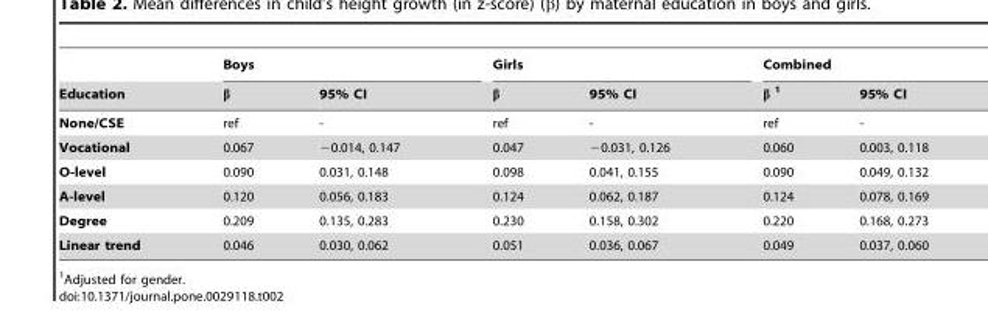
<table><thead><tr><td rowspan="2">Education</td><td colspan="2">Boys</td><td colspan="2">Girls</td><td colspan="2">Combined</td></tr><tr><td>β</td><td>95% CI</td><td>β</td><td>95% CI</td><td>β 1</td><td>95% CI</td></tr></thead><tbody><tr><td>None/CSE</td><td>ref</td><td>-</td><td>ref</td><td>-</td><td>ref</td><td>-</td></tr><tr><td>Vocational</td><td>0.067</td><td>−0.014, 0.147</td><td>0.047</td><td>−0.031, 0.126</td><td>0.060</td><td>0.003, 0.118</td></tr><tr><td>O-level</td><td>0.090</td><td>0.031, 0.148</td><td>0.098</td><td>0.041, 0.155</td><td>0.090</td><td>0.049, 0.132</td></tr><tr><td>A-level</td><td>0.120</td><td>0.056, 0.183</td><td>0.124</td><td>0.062, 0.187</td><td>0.124</td><td>0.078, 0.169</td></tr><tr><td>Degree</td><td>0.209</td><td>0.135, 0.283</td><td>0.230</td><td>0.158, 0.302</td><td>0.220</td><td>0.168, 0.273</td></tr><tr><td>Linear trend</td><td>0.046</td><td>0.030, 0.062</td><td>0.051</td><td>0.036, 0.067</td><td>0.049</td><td>0.037, 0.060</td></tr></tbody></table>